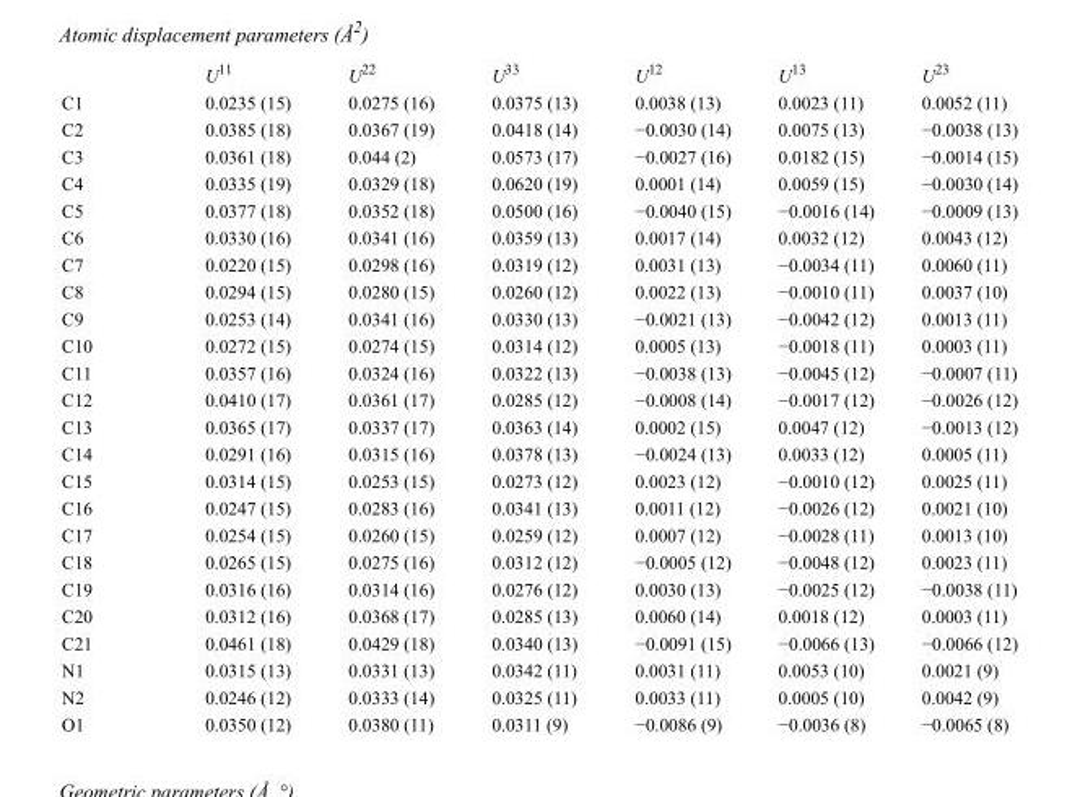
<table><thead><tr><td></td><td>U<sup>11</sup></td><td>U<sup>22</sup></td><td>U<sup>33</sup></td><td>U<sup>12</sup></td><td>U<sup>13</sup></td><td>U<sup>23</sup></td></tr></thead><tbody><tr><td>C1</td><td>0.0235 (15)</td><td>0.0275 (16)</td><td>0.0375 (13)</td><td>0.0038 (13)</td><td>0.0023 (11)</td><td>0.0052 (11)</td></tr><tr><td>C2</td><td>0.0385 (18)</td><td>0.0367 (19)</td><td>0.0418 (14)</td><td>−0.0030 (14)</td><td>0.0075 (13)</td><td>−0.0038 (13)</td></tr><tr><td>C3</td><td>0.0361 (18)</td><td>0.044 (2)</td><td>0.0573 (17)</td><td>−0.0027 (16)</td><td>0.0182 (15)</td><td>−0.0014 (15)</td></tr><tr><td>C4</td><td>0.0335 (19)</td><td>0.0329 (18)</td><td>0.0620 (19)</td><td>0.0001 (14)</td><td>0.0059 (15)</td><td>−0.0030 (14)</td></tr><tr><td>C5</td><td>0.0377 (18)</td><td>0.0352 (18)</td><td>0.0500 (16)</td><td>−0.0040 (15)</td><td>−0.0016 (14)</td><td>−0.0009 (13)</td></tr><tr><td>C6</td><td>0.0330 (16)</td><td>0.0341 (16)</td><td>0.0359 (13)</td><td>0.0017 (14)</td><td>0.0032 (12)</td><td>0.0043 (12)</td></tr><tr><td>C7</td><td>0.0220 (15)</td><td>0.0298 (16)</td><td>0.0319 (12)</td><td>0.0031 (13)</td><td>−0.0034 (11)</td><td>0.0060 (11)</td></tr><tr><td>C8</td><td>0.0294 (15)</td><td>0.0280 (15)</td><td>0.0260 (12)</td><td>0.0022 (13)</td><td>−0.0010 (11)</td><td>0.0037 (10)</td></tr><tr><td>C9</td><td>0.0253 (14)</td><td>0.0341 (16)</td><td>0.0330 (13)</td><td>−0.0021 (13)</td><td>−0.0042 (12)</td><td>0.0013 (11)</td></tr><tr><td>C10</td><td>0.0272 (15)</td><td>0.0274 (15)</td><td>0.0314 (12)</td><td>0.0005 (13)</td><td>−0.0018 (11)</td><td>0.0003 (11)</td></tr><tr><td>C11</td><td>0.0357 (16)</td><td>0.0324 (16)</td><td>0.0322 (13)</td><td>−0.0038 (13)</td><td>−0.0045 (12)</td><td>−0.0007 (11)</td></tr><tr><td>C12</td><td>0.0410 (17)</td><td>0.0361 (17)</td><td>0.0285 (12)</td><td>−0.0008 (14)</td><td>−0.0017 (12)</td><td>−0.0026 (12)</td></tr><tr><td>C13</td><td>0.0365 (17)</td><td>0.0337 (17)</td><td>0.0363 (14)</td><td>0.0002 (15)</td><td>0.0047 (12)</td><td>−0.0013 (12)</td></tr><tr><td>C14</td><td>0.0291 (16)</td><td>0.0315 (16)</td><td>0.0378 (13)</td><td>−0.0024 (13)</td><td>0.0033 (12)</td><td>0.0005 (11)</td></tr><tr><td>C15</td><td>0.0314 (15)</td><td>0.0253 (15)</td><td>0.0273 (12)</td><td>0.0023 (12)</td><td>−0.0010 (12)</td><td>0.0025 (11)</td></tr><tr><td>C16</td><td>0.0247 (15)</td><td>0.0283 (16)</td><td>0.0341 (13)</td><td>0.0011 (12)</td><td>−0.0026 (12)</td><td>0.0021 (10)</td></tr><tr><td>C17</td><td>0.0254 (15)</td><td>0.0260 (15)</td><td>0.0259 (12)</td><td>0.0007 (12)</td><td>−0.0028 (11)</td><td>0.0013 (10)</td></tr><tr><td>C18</td><td>0.0265 (15)</td><td>0.0275 (16)</td><td>0.0312 (12)</td><td>−0.0005 (12)</td><td>−0.0048 (12)</td><td>0.0023 (11)</td></tr><tr><td>C19</td><td>0.0316 (16)</td><td>0.0314 (16)</td><td>0.0276 (12)</td><td>0.0030 (13)</td><td>−0.0025 (12)</td><td>−0.0038 (11)</td></tr><tr><td>C20</td><td>0.0312 (16)</td><td>0.0368 (17)</td><td>0.0285 (13)</td><td>0.0060 (14)</td><td>0.0018 (12)</td><td>0.0003 (11)</td></tr><tr><td>C21</td><td>0.0461 (18)</td><td>0.0429 (18)</td><td>0.0340 (13)</td><td>−0.0091 (15)</td><td>−0.0066 (13)</td><td>−0.0066 (12)</td></tr><tr><td>N1</td><td>0.0315 (13)</td><td>0.0331 (13)</td><td>0.0342 (11)</td><td>0.0031 (11)</td><td>0.0053 (10)</td><td>0.0021 (9)</td></tr><tr><td>N2</td><td>0.0246 (12)</td><td>0.0333 (14)</td><td>0.0325 (11)</td><td>0.0033 (11)</td><td>0.0005 (10)</td><td>0.0042 (9)</td></tr><tr><td>O1</td><td>0.0350 (12)</td><td>0.0380 (11)</td><td>0.0311 (9)</td><td>−0.0086 (9)</td><td>−0.0036 (8)</td><td>−0.0065 (8)</td></tr></tbody></table>